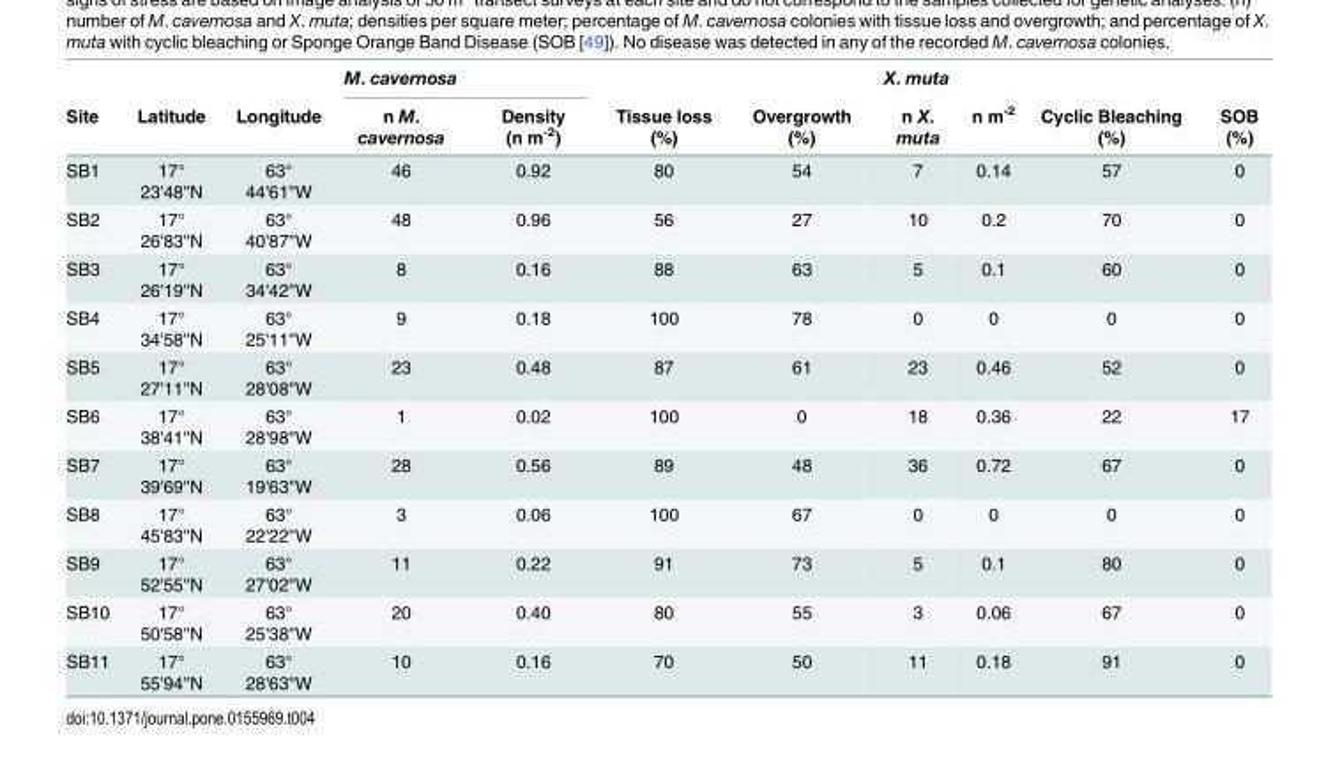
<table><thead><tr><td rowspan="2">Site</td><td rowspan="2">Latitude</td><td rowspan="2">Longitude</td><td colspan="2">M. cavernosa</td><td rowspan="2">Tissue loss (%)</td><td rowspan="2">Overgrowth (%)</td><td rowspan="2">X. muta n X. muta</td><td rowspan="2">n m<sup>-2</sup></td><td rowspan="2">Cyclic Bleaching (%)</td><td rowspan="2">SOB (%)</td></tr><tr><td>n M. cavernosa</td><td>Density (n m<sup>-2</sup>)</td></tr></thead><tbody><tr><td>SB1</td><td>17° 23&#x27;48&#x27;&#x27;N</td><td>63° 44&#x27;61&#x27;&#x27;W</td><td>46</td><td>0.92</td><td>80</td><td>54</td><td>7</td><td>0.14</td><td>57</td><td>0</td></tr><tr><td>SB2</td><td>17° 26&#x27;83&#x27;&#x27;N</td><td>63° 40&#x27;87&#x27;&#x27;W</td><td>48</td><td>0.96</td><td>56</td><td>27</td><td>10</td><td>0.2</td><td>70</td><td>0</td></tr><tr><td>SB3</td><td>17° 26&#x27;19&#x27;&#x27;N</td><td>63° 34&#x27;42&#x27;&#x27;W</td><td>8</td><td>0.16</td><td>88</td><td>63</td><td>5</td><td>0.1</td><td>60</td><td>0</td></tr><tr><td>SB4</td><td>17° 34&#x27;58&#x27;&#x27;N</td><td>63° 25&#x27;11&#x27;&#x27;W</td><td>9</td><td>0.18</td><td>100</td><td>78</td><td>0</td><td>0</td><td>0</td><td>0</td></tr><tr><td>SB5</td><td>17° 27&#x27;11&#x27;&#x27;N</td><td>63° 28&#x27;08&#x27;&#x27;W</td><td>23</td><td>0.48</td><td>87</td><td>61</td><td>23</td><td>0.46</td><td>52</td><td>0</td></tr><tr><td>SB6</td><td>17° 38&#x27;41&#x27;&#x27;N</td><td>63° 28&#x27;98&#x27;&#x27;W</td><td>1</td><td>0.02</td><td>100</td><td>0</td><td>18</td><td>0.36</td><td>22</td><td>17</td></tr><tr><td>SB7</td><td>17° 39&#x27;69&#x27;&#x27;N</td><td>63° 19&#x27;63&#x27;&#x27;W</td><td>28</td><td>0.56</td><td>89</td><td>48</td><td>36</td><td>0.72</td><td>67</td><td>0</td></tr><tr><td>SB8</td><td>17° 45&#x27;83&#x27;&#x27;N</td><td>63° 22&#x27;22&#x27;&#x27;W</td><td>3</td><td>0.06</td><td>100</td><td>67</td><td>0</td><td>0</td><td>0</td><td>0</td></tr><tr><td>SB9</td><td>17° 52&#x27;55&#x27;&#x27;N</td><td>63° 27&#x27;02&#x27;&#x27;W</td><td>11</td><td>0.22</td><td>91</td><td>73</td><td>5</td><td>0.1</td><td>80</td><td>0</td></tr><tr><td>SB10</td><td>17° 50&#x27;58&#x27;&#x27;N</td><td>63° 25&#x27;38&#x27;&#x27;W</td><td>20</td><td>0.40</td><td>80</td><td>55</td><td>3</td><td>0.06</td><td>67</td><td>0</td></tr><tr><td>SB11</td><td>17° 55&#x27;94&#x27;&#x27;N</td><td>63° 28&#x27;63&#x27;&#x27;W</td><td>10</td><td>0.16</td><td>70</td><td>50</td><td>11</td><td>0.18</td><td>91</td><td>0</td></tr></tbody></table>